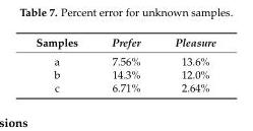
<table><thead><tr><td>Samples</td><td>Prefer</td><td>Pleasure</td></tr></thead><tbody><tr><td>a</td><td>7.56%</td><td>13.6%</td></tr><tr><td>b</td><td>14.3%</td><td>12.0%</td></tr><tr><td>c</td><td>6.71%</td><td>2.64%</td></tr></tbody></table>